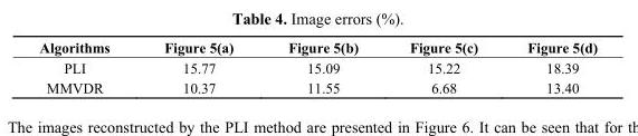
<table><thead><tr><td>Algorithms</td><td>Figure 5(a)</td><td>Figure 5(b)</td><td>Figure 5(c)</td><td>Figure 5(d)</td></tr></thead><tbody><tr><td>PLI</td><td>15.77</td><td>15.09</td><td>15.22</td><td>18.39</td></tr><tr><td>MMVDR</td><td>10.37</td><td>11.55</td><td>6.68</td><td>13.40</td></tr></tbody></table>